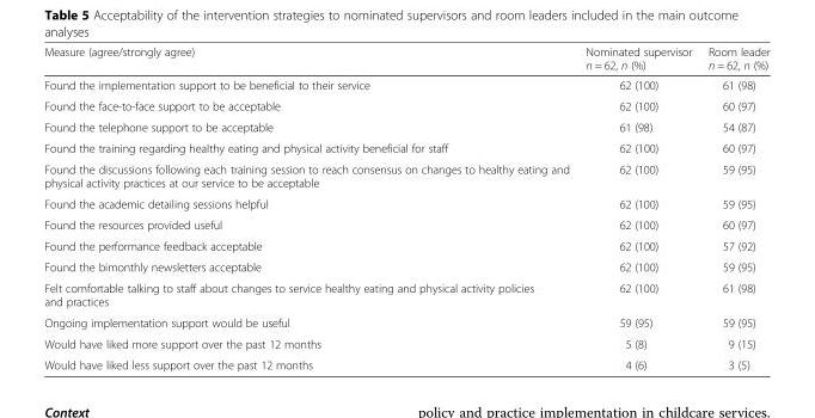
<table><thead><tr><td>Measure (agree/strongly agree)</td><td>Nominated supervisor n = 62, n (%)</td><td>Room leader n = 62, n (%)</td></tr></thead><tbody><tr><td>Found the implementation support to be beneficial to their service</td><td>62 (100)</td><td>61 (98)</td></tr><tr><td>Found the face-to-face support to be acceptable</td><td>62 (100)</td><td>60 (97)</td></tr><tr><td>Found the telephone support to be acceptable</td><td>61 (98)</td><td>54 (87)</td></tr><tr><td>Found the training regarding healthy eating and physical activity beneficial for staff</td><td>62 (100)</td><td>60 (97)</td></tr><tr><td>Found the discussions following each training session to reach consensus on changes to healthy eating and physical activity practices at our service to be acceptable</td><td>62 (100)</td><td>59 (95)</td></tr><tr><td>Found the academic detailing sessions helpful</td><td>62 (100)</td><td>59 (95)</td></tr><tr><td>Found the resources provided useful</td><td>62 (100)</td><td>60 (97)</td></tr><tr><td>Found the performance feedback acceptable</td><td>62 (100)</td><td>57 (92)</td></tr><tr><td>Found the bimonthly newsletters acceptable</td><td>62 (100)</td><td>59 (95)</td></tr><tr><td>Felt comfortable talking to staff about changes to service healthy eating and physical activity policies and practices</td><td>62 (100)</td><td>61 (98)</td></tr><tr><td>Ongoing implementation support would be useful</td><td>59 (95)</td><td>59 (95)</td></tr><tr><td>Would have liked more support over the past 12 months</td><td>5 (8)</td><td>9 (15)</td></tr><tr><td>Would have liked less support over the past 12 months</td><td>4 (6)</td><td>3 (5)</td></tr></tbody></table>